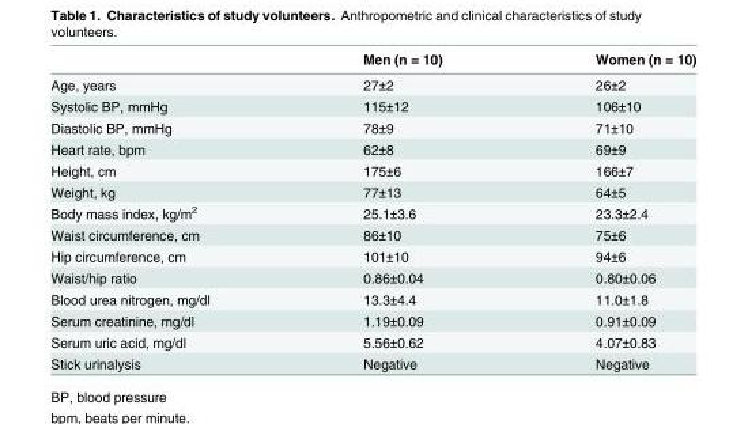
<table><thead><tr><td></td><td>Men (n = 10)</td><td>Women (n = 10)</td></tr></thead><tbody><tr><td>Age, years</td><td>27±2</td><td>26±2</td></tr><tr><td>Systolic BP, mmHg</td><td>115±12</td><td>106±10</td></tr><tr><td>Diastolic BP, mmHg</td><td>78±9</td><td>71±10</td></tr><tr><td>Heart rate, bpm</td><td>62±8</td><td>69±9</td></tr><tr><td>Height, cm</td><td>175±6</td><td>166±7</td></tr><tr><td>Weight, kg</td><td>77±13</td><td>64±5</td></tr><tr><td>Body mass index, kg/m<sup>2</sup></td><td>25.1±3.6</td><td>23.3±2.4</td></tr><tr><td>Waist circumference, cm</td><td>86±10</td><td>75±6</td></tr><tr><td>Hip circumference, cm</td><td>101±10</td><td>94±6</td></tr><tr><td>Waist/hip ratio</td><td>0.86±0.04</td><td>0.80±0.06</td></tr><tr><td>Blood urea nitrogen, mg/dl</td><td>13.3±4.4</td><td>11.0±1.8</td></tr><tr><td>Serum creatinine, mg/dl</td><td>1.19±0.09</td><td>0.91±0.09</td></tr><tr><td>Serum uric acid, mg/dl</td><td>5.56±0.62</td><td>4.07±0.83</td></tr><tr><td>Stick urinalysis</td><td>Negative</td><td>Negative</td></tr></tbody></table>